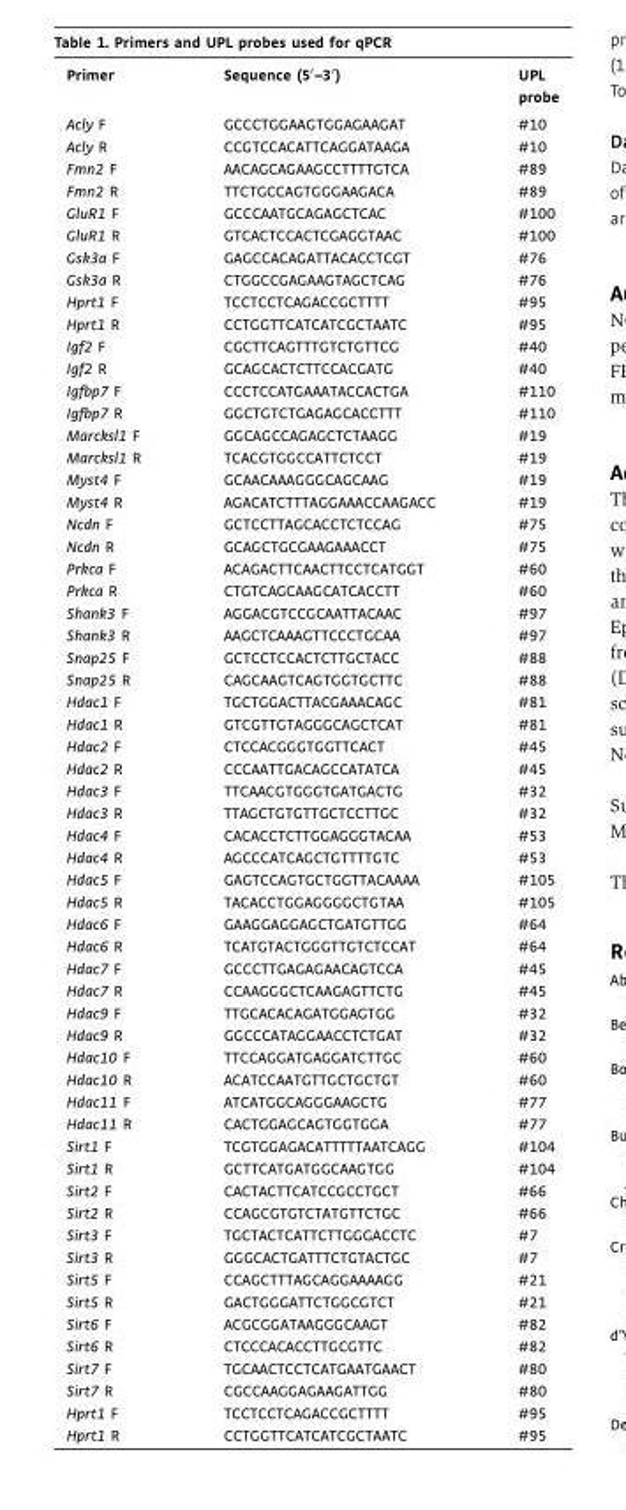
<table><thead><tr><td>Primer</td><td>Sequence (5′–3′)</td><td>UPL probe</td></tr></thead><tbody><tr><td>Acly F</td><td>GCCCTGGAAGTGGAGAAGAT</td><td>#10</td></tr><tr><td>Acly R</td><td>CCGTCCACATTCAGGATAAGA</td><td>#10</td></tr><tr><td>Fmn2 F</td><td>AACAGCAGAAGCCTTTTGTCA</td><td>#89</td></tr><tr><td>Fmn2 R</td><td>TTCTGCCAGTGGGAAGACA</td><td>#89</td></tr><tr><td>GluR1 F</td><td>GCCCAATGCAGAGCTCAC</td><td>#100</td></tr><tr><td>GluR1 R</td><td>GTCACTCCACTCGAGGTAAC</td><td>#100</td></tr><tr><td>Gsk3a F</td><td>GAGCCACAGATTACACCTCGT</td><td>#76</td></tr><tr><td>Gsk3a R</td><td>CTGGCCGAGAAGTAGCTCAG</td><td>#76</td></tr><tr><td>Hprt1 F</td><td>TCCTCCTCAGACCGCTTTT</td><td>#95</td></tr><tr><td>Hprt1 R</td><td>CCTGGTTCATCATCGCTAATC</td><td>#95</td></tr><tr><td>Igf2 F</td><td>CGCTTCAGTTTGTCTGTTCG</td><td>#40</td></tr><tr><td>Igf2 R</td><td>GCAGCACTCTTCCACGATG</td><td>#40</td></tr><tr><td>Igfbp7 F</td><td>CCCTCCATGAAATACCACTGA</td><td>#110</td></tr><tr><td>Igfbp7 R</td><td>GGCTGTCTGAGAGCACCTTT</td><td>#110</td></tr><tr><td>Marcksl1 F</td><td>GGCAGCCAGAGCTCTAAGG</td><td>#19</td></tr><tr><td>Marcksl1 R</td><td>TCACGTGGCCATTCTCCT</td><td>#19</td></tr><tr><td>Myst4 F</td><td>GCAACAAAGGGCAGCAAG</td><td>#19</td></tr><tr><td>Myst4 R</td><td>AGACATCTTTAGGAAACCAAGACC</td><td>#19</td></tr><tr><td>Ncdn F</td><td>GCTCCTTAGCACCTCTCCAG</td><td>#75</td></tr><tr><td>Ncdn R</td><td>GCAGCTGCGAAGAAACCT</td><td>#75</td></tr><tr><td>Prkca F</td><td>ACAGACTTCAACTTCCTCATGGT</td><td>#60</td></tr><tr><td>Prkca R</td><td>CTGTCAGCAAGCATCACCTT</td><td>#60</td></tr><tr><td>Shank3 F</td><td>AGGACGTCCGCAATTACAAC</td><td>#97</td></tr><tr><td>Shank3 R</td><td>AAGCTCAAAGTTCCCTGCAA</td><td>#97</td></tr><tr><td>Snap25 F</td><td>GCTCCTCCACTCTTGCTACC</td><td>#88</td></tr><tr><td>Snap25 R</td><td>CAGCAAGTCAGTGGTGCTTC</td><td>#88</td></tr><tr><td>Hdac1 F</td><td>TGCTGGACTTACGAAACAGC</td><td>#81</td></tr><tr><td>Hdac1 R</td><td>GTCGTTGTAGGGCAGCTCAT</td><td>#81</td></tr><tr><td>Hdac2 F</td><td>CTCCACGGGTGGTTCACT</td><td>#45</td></tr><tr><td>Hdac2 R</td><td>CCCAATTGACAGCCATATCA</td><td>#45</td></tr><tr><td>Hdac3 F</td><td>TTCAACGTGGGTGATGACTG</td><td>#32</td></tr><tr><td>Hdac3 R</td><td>TTAGCTGTGTTGCTCCTTGC</td><td>#32</td></tr><tr><td>Hdac4 F</td><td>CACACCTCTTGGAGGGTACAA</td><td>#53</td></tr><tr><td>Hdac4 R</td><td>AGCCCATCAGCTGTTTTGTC</td><td>#53</td></tr><tr><td>Hdac5 F</td><td>GAGTCCAGTGCTGGTTACAAAA</td><td>#105</td></tr><tr><td>Hdac5 R</td><td>TACACCTGGAGGGGCTGTAA</td><td>#105</td></tr><tr><td>Hdac6 F</td><td>GAAGGAGGAGCTGATGTTGG</td><td>#64</td></tr><tr><td>Hdac6 R</td><td>TCATGTACTGGGTTGTCTCCAT</td><td>#64</td></tr><tr><td>Hdac7 F</td><td>GCCCTTGAGAGAACAGTCCA</td><td>#45</td></tr><tr><td>Hdac7 R</td><td>CCAAGGGCTCAAGAGTTCTG</td><td>#45</td></tr><tr><td>Hdac9 F</td><td>TTGCACACAGATGGAGTGG</td><td>#32</td></tr><tr><td>Hdac9 R</td><td>GGCCCATAGGAACCTCTGAT</td><td>#32</td></tr><tr><td>Hdac10 F</td><td>TTCCAGGATGAGGATCTTGC</td><td>#60</td></tr><tr><td>Hdac10 R</td><td>ACATCCAATGTTGCTGCTGT</td><td>#60</td></tr><tr><td>Hdac11 F</td><td>ATCATGGCAGGGAAGCTG</td><td>#77</td></tr><tr><td>Hdac11 R</td><td>CACTGGAGCAGTGGTGGA</td><td>#77</td></tr><tr><td>Sirt1 F</td><td>TCGTGGAGACATTTTTAATCAGG</td><td>#104</td></tr><tr><td>Sirt1 R</td><td>GCTTCATGATGGCAAGTGG</td><td>#104</td></tr><tr><td>Sirt2 F</td><td>CACTACTTCATCCGCCTGCT</td><td>#66</td></tr><tr><td>Sirt2 R</td><td>CCAGCGTGTCTATGTTCTGC</td><td>#66</td></tr><tr><td>Sirt3 F</td><td>TGCTACTCATTCTTGGGACCTC</td><td>#7</td></tr><tr><td>Sirt3 R</td><td>GGGCACTGATTTCTGTACTGC</td><td>#7</td></tr><tr><td>Sirt5 F</td><td>CCAGCTTTAGCAGGAAAAGG</td><td>#21</td></tr><tr><td>Sirt5 R</td><td>GACTGGGATTCTGGCGTCT</td><td>#21</td></tr><tr><td>Sirt6 F</td><td>ACGCGGATAAGGGCAAGT</td><td>#82</td></tr><tr><td>Sirt6 R</td><td>CTCCCACACCTTGCGTTC</td><td>#82</td></tr><tr><td>Sirt7 F</td><td>TGCAACTCCTCATGAATGAACT</td><td>#80</td></tr><tr><td>Sirt7 R</td><td>CGCCAAGGAGAAGATTGG</td><td>#80</td></tr><tr><td>Hprt1 F</td><td>TCCTCCTCAGACCGCTTTT</td><td>#95</td></tr><tr><td>Hprt1 R</td><td>CCTGGTTCATCATCGCTAATC</td><td>#95</td></tr></tbody></table>